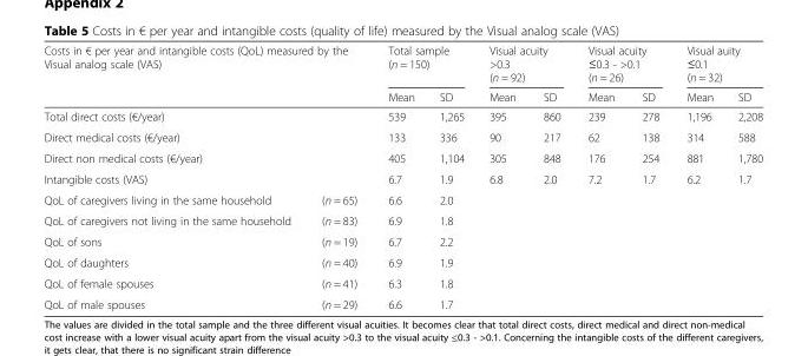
<table><thead><tr><td rowspan="2" colspan="2">Costs in € per year and intangible costs (QoL) measured by the Visual analog scale (VAS)</td><td colspan="2">Total sample (n = 150)</td><td colspan="2">Visual acuity &gt;0.3 (n = 92)</td><td colspan="2">Visual acuity ≤0.3 - &gt;0.1 (n = 26)</td><td colspan="2">Visual auity ≤0.1 (n = 32)</td></tr><tr><td>Mean</td><td>SD</td><td>Mean</td><td>SD</td><td>Mean</td><td>SD</td><td>Mean</td><td>SD</td></tr></thead><tbody><tr><td colspan="2">Total direct costs (€/year)</td><td>539</td><td>1,265</td><td>395</td><td>860</td><td>239</td><td>278</td><td>1,196</td><td>2,208</td></tr><tr><td colspan="2">Direct medical costs (€/year)</td><td>133</td><td>336</td><td>90</td><td>217</td><td>62</td><td>138</td><td>314</td><td>588</td></tr><tr><td colspan="2">Direct non medical costs (€/year)</td><td>405</td><td>1,104</td><td>305</td><td>848</td><td>176</td><td>254</td><td>881</td><td>1,780</td></tr><tr><td colspan="2">Intangible costs (VAS)</td><td>6.7</td><td>1.9</td><td>6.8</td><td>2.0</td><td>7.2</td><td>1.7</td><td>6.2</td><td>1.7</td></tr><tr><td>QoL of caregivers living in the same household</td><td>(n = 65)</td><td>6.6</td><td>2.0</td><td></td><td></td><td></td><td></td><td></td><td></td></tr><tr><td>QoL of caregivers not living in the same household</td><td>(n = 83)</td><td>6.9</td><td>1.8</td><td></td><td></td><td></td><td></td><td></td><td></td></tr><tr><td>QoL of sons</td><td>(n = 19)</td><td>6.7</td><td>2.2</td><td></td><td></td><td></td><td></td><td></td><td></td></tr><tr><td>QoL of daughters</td><td>(n = 40)</td><td>6.9</td><td>1.9</td><td></td><td></td><td></td><td></td><td></td><td></td></tr><tr><td>QoL of female spouses</td><td>(n = 41)</td><td>6.3</td><td>1.8</td><td></td><td></td><td></td><td></td><td></td><td></td></tr><tr><td>QoL of male spouses</td><td>(n = 29)</td><td>6.6</td><td>1.7</td><td></td><td></td><td></td><td></td><td></td><td></td></tr></tbody></table>